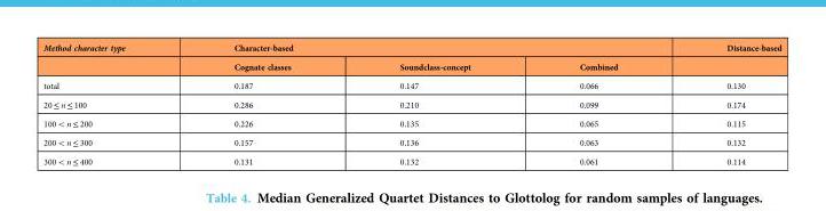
<table><thead><tr><td rowspan="2">Method character type</td><td colspan="3">Character-based</td><td rowspan="2">Distance-based</td></tr><tr><td>Cognate classes</td><td>Soundclass-concept</td><td>Combined</td></tr></thead><tbody><tr><td>total</td><td>0.187</td><td>0.147</td><td>0.066</td><td>0.130</td></tr><tr><td>20 ≤ n ≤ 100</td><td>0.286</td><td>0.210</td><td>0.099</td><td>0.174</td></tr><tr><td>100&lt;n ≤ 200</td><td>0.226</td><td>0.135</td><td>0.065</td><td>0.115</td></tr><tr><td>200&lt;n ≤ 300</td><td>0.157</td><td>0.136</td><td>0.063</td><td>0.132</td></tr><tr><td>300&lt;n ≤ 400</td><td>0.131</td><td>0.132</td><td>0.061</td><td>0.114</td></tr></tbody></table>